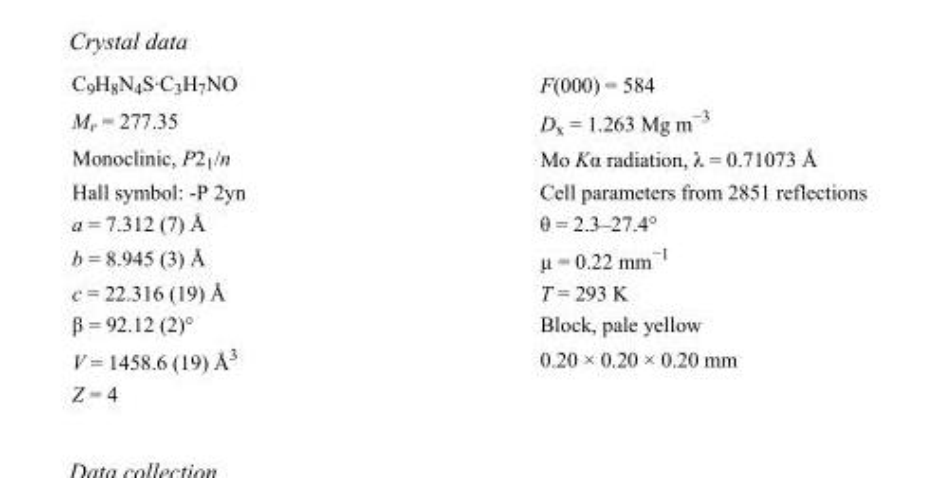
<table><tbody><tr><td>C<sub>9</sub>H<sub>8</sub>N<sub>4</sub>S·C<sub>3</sub>H<sub>7</sub>NO</td><td>F(000) = 584</td></tr><tr><td>M<sub>r</sub> = 277.35</td><td>D<sub>x</sub> = 1.263 Mg m<sup>−3</sup></td></tr><tr><td>Monoclinic, P2<sub>1</sub>/n</td><td>Mo Kα radiation, λ = 0.71073 Å</td></tr><tr><td>Hall symbol: -P 2yn</td><td>Cell parameters from 2851 reflections</td></tr><tr><td>a = 7.312 (7) Å</td><td>θ = 2.3–27.4°</td></tr><tr><td>b = 8.945 (3) Å</td><td>µ = 0.22 mm<sup>−1</sup></td></tr><tr><td>c = 22.316 (19) Å</td><td>T = 293 K</td></tr><tr><td>β = 92.12 (2)°</td><td>Block, pale yellow</td></tr><tr><td>V = 1458.6 (19) Å<sup>3</sup></td><td>0.20 × 0.20 × 0.20 mm</td></tr><tr><td>Z = 4</td><td></td></tr></tbody></table>